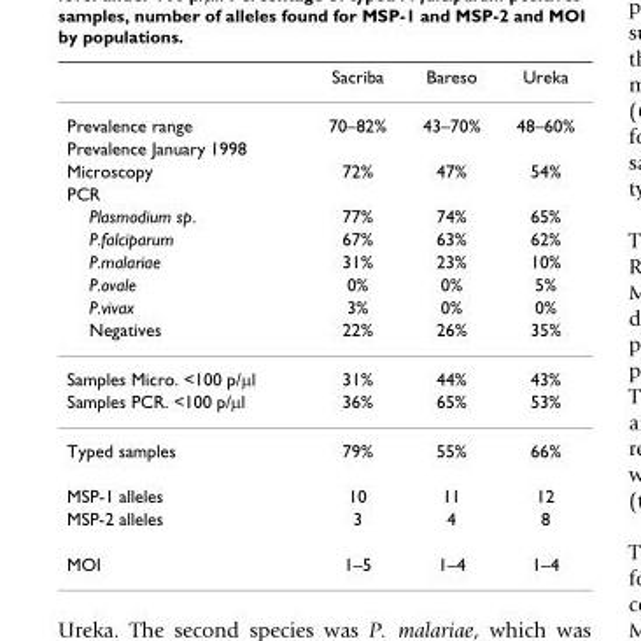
<table><thead><tr><td></td><td>Sacriba</td><td>Bareso</td><td>Ureka</td></tr></thead><tbody><tr><td>Prevalence range</td><td>70–82%</td><td>43–70%</td><td>48–60%</td></tr><tr><td colspan="4">Prevalence January 1998</td></tr><tr><td>Microscopy</td><td>72%</td><td>47%</td><td>54%</td></tr><tr><td colspan="4">PCR</td></tr><tr><td>Plasmodium sp.</td><td>77%</td><td>74%</td><td>65%</td></tr><tr><td>P.falciparum</td><td>67%</td><td>63%</td><td>62%</td></tr><tr><td>P.malariae</td><td>31%</td><td>23%</td><td>10%</td></tr><tr><td>P.ovale</td><td>0%</td><td>0%</td><td>5%</td></tr><tr><td>P.vivax</td><td>3%</td><td>0%</td><td>0%</td></tr><tr><td>Negatives</td><td>22%</td><td>26%</td><td>35%</td></tr><tr><td>Samples Micro. &lt;100 p/µl</td><td>31%</td><td>44%</td><td>43%</td></tr><tr><td>Samples PCR. &lt;100 p/µl</td><td>36%</td><td>65%</td><td>53%</td></tr><tr><td>Typed samples</td><td>79%</td><td>55%</td><td>66%</td></tr><tr><td>MSP-1 alleles</td><td>10</td><td>11</td><td>12</td></tr><tr><td>MSP-2 alleles</td><td>3</td><td>4</td><td>8</td></tr><tr><td>MOI</td><td>1–5</td><td>1–4</td><td>1–4</td></tr></tbody></table>